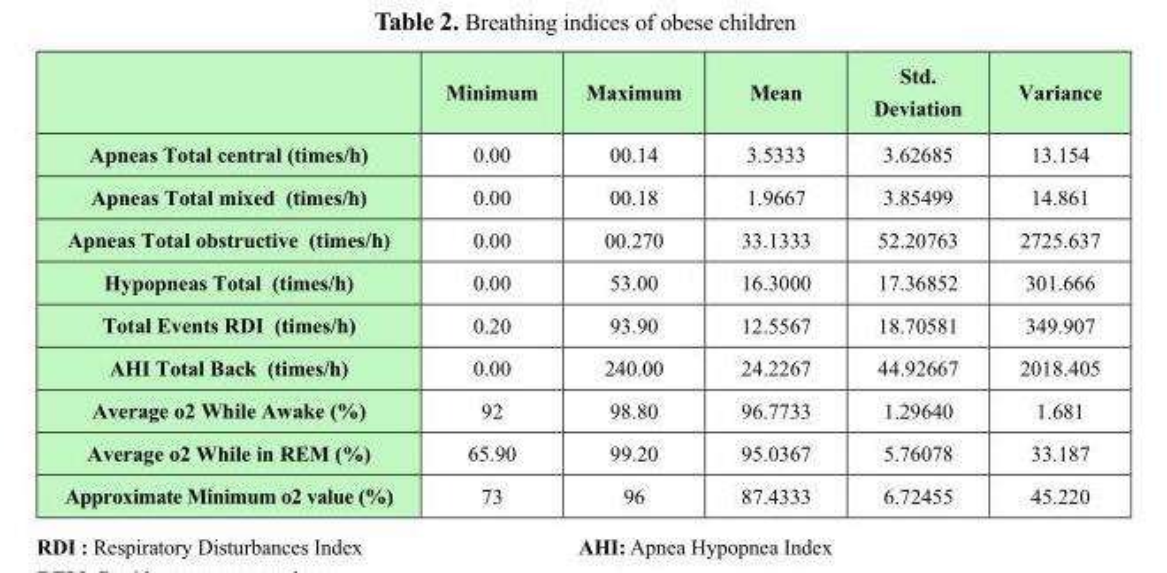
<table><thead><tr><td></td><td>Minimum</td><td>Maximum</td><td>Mean</td><td>Std. Deviation</td><td>Variance</td></tr></thead><tbody><tr><td>Apneas Total central (times/h)</td><td>0.00</td><td>00.14</td><td>3.5333</td><td>3.62685</td><td>13.154</td></tr><tr><td>Apneas Total mixed (times/h)</td><td>0.00</td><td>00.18</td><td>1.9667</td><td>3.85499</td><td>14.861</td></tr><tr><td>Apneas Total obstructive (times/h)</td><td>0.00</td><td>00.270</td><td>33.1333</td><td>52.20763</td><td>2725.637</td></tr><tr><td>Hypopneas Total (times/h)</td><td>0.00</td><td>53.00</td><td>16.3000</td><td>17.36852</td><td>301.666</td></tr><tr><td>Total Events RDI (times/h)</td><td>0.20</td><td>93.90</td><td>12.5567</td><td>18.70581</td><td>349.907</td></tr><tr><td>AHI Total Back (times/h)</td><td>0.00</td><td>240.00</td><td>24.2267</td><td>44.92667</td><td>2018.405</td></tr><tr><td>Average o2 While Awake (%)</td><td>92</td><td>98.80</td><td>96.7733</td><td>1.29640</td><td>1.681</td></tr><tr><td>Average o2 While in REM (%)</td><td>65.90</td><td>99.20</td><td>95.0367</td><td>5.76078</td><td>33.187</td></tr><tr><td>Approximate Minimum o2 value (%)</td><td>73</td><td>96</td><td>87.4333</td><td>6.72455</td><td>45.220</td></tr></tbody></table>